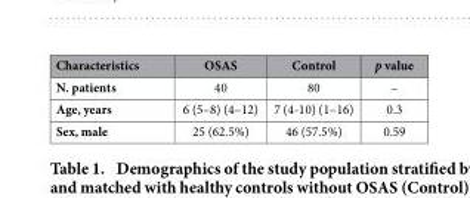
<table><thead><tr><td>Characteristics</td><td>OSAS</td><td>Control</td><td>p value</td></tr></thead><tbody><tr><td>N. patients</td><td>40</td><td>80</td><td>–</td></tr><tr><td>Age, years</td><td>6 (5–8) (4–12)</td><td>7 (4-10) (1–16)</td><td>0.3</td></tr><tr><td>Sex, male</td><td>25 (62.5%)</td><td>46 (57.5%)</td><td>0.59</td></tr></tbody></table>